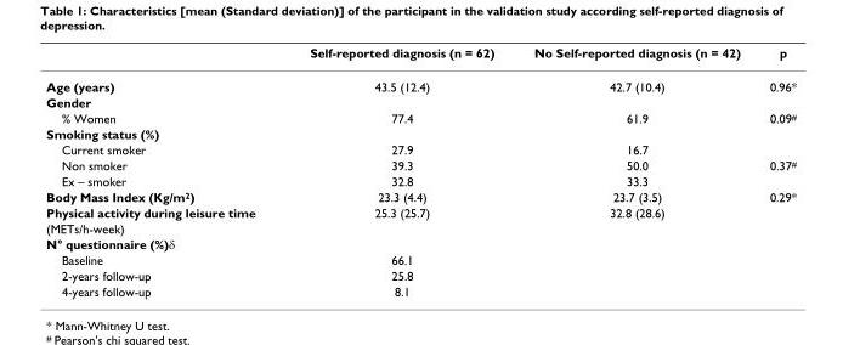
<table><thead><tr><td></td><td>Self-reported diagnosis (n = 62)</td><td>No Self-reported diagnosis (n = 42)</td><td>p</td></tr></thead><tbody><tr><td>Age (years)</td><td>43.5 (12.4)</td><td>42.7 (10.4)</td><td>0.96*</td></tr><tr><td colspan="4">Gender</td></tr><tr><td>% Women</td><td>77.4</td><td>61.9</td><td>0.09<sup>#</sup></td></tr><tr><td colspan="4">Smoking status (%)</td></tr><tr><td>Current smoker</td><td>27.9</td><td>16.7</td><td></td></tr><tr><td>Non smoker</td><td>39.3</td><td>50.0</td><td>0.37<sup>#</sup></td></tr><tr><td>Ex – smoker</td><td>32.8</td><td>33.3</td><td></td></tr><tr><td>Body Mass Index (Kg/m<sup>2</sup>)</td><td>23.3 (4.4)</td><td>23.7 (3.5)</td><td>0.29*</td></tr><tr><td>Physical activity during leisure time</td><td>25.3 (25.7)</td><td>32.8 (28.6)</td><td></td></tr><tr><td colspan="4">(METs/h-week)</td></tr><tr><td colspan="4">N° questionnaire (%)δ</td></tr><tr><td>Baseline</td><td>66.1</td><td></td><td></td></tr><tr><td>2-years follow-up</td><td>25.8</td><td></td><td></td></tr><tr><td>4-years follow-up</td><td>8.1</td><td></td><td></td></tr></tbody></table>